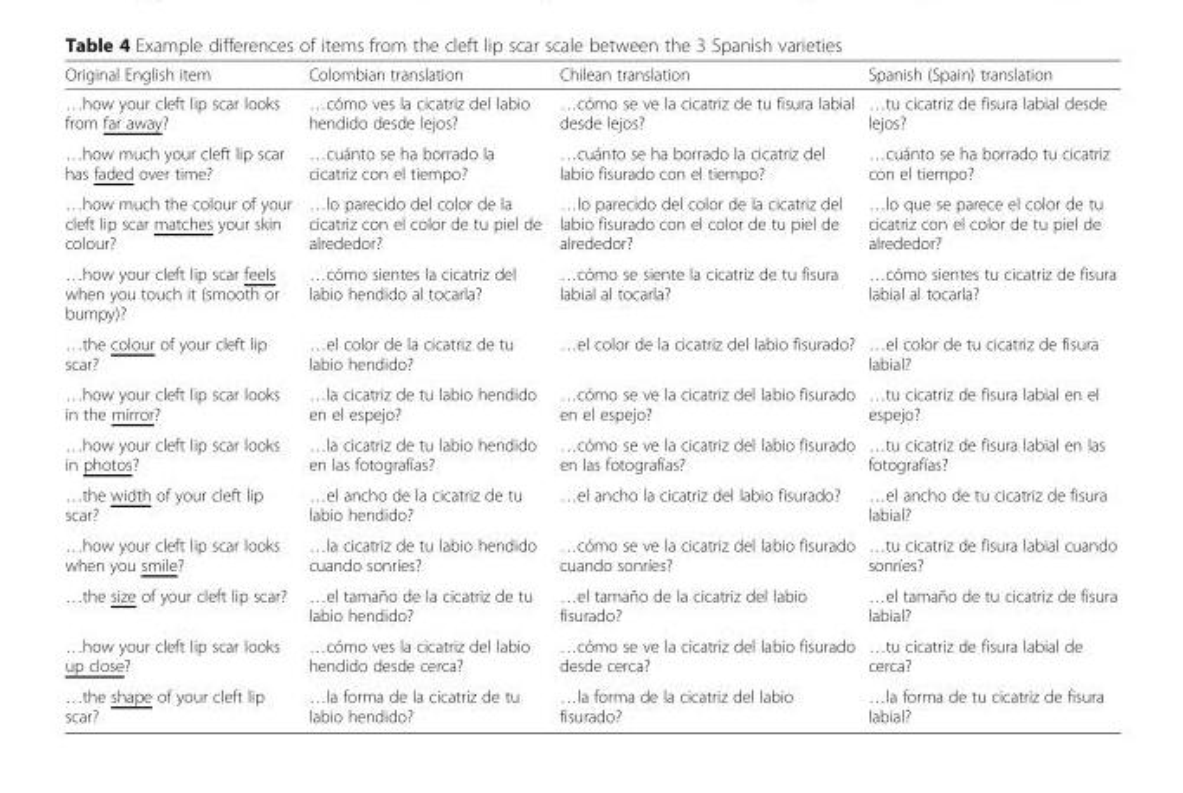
<table><thead><tr><td>Original English item</td><td>Colombian translation</td><td>Chilean translation</td><td>Spanish (Spain) translation</td></tr></thead><tbody><tr><td>…how your cleft lip scar looks from far away?</td><td>…cómo ves la cicatriz del labio hendido desde lejos?</td><td>…cómo se ve la cicatriz de tu fisura labial desde lejos?</td><td>…tu cicatriz de fisura labial desde lejos?</td></tr><tr><td>…how much your cleft lip scar has faded over time?</td><td>…cuánto se ha borrado la cicatriz con el tiempo?</td><td>…cuánto se ha borrado la cicatriz del labio fisurado con el tiempo?</td><td>…cuánto se ha borrado tu cicatriz con el tiempo?</td></tr><tr><td>…how much the colour of your cleft lip scar matches your skin colour?</td><td>…lo parecido del color de la cicatriz con el color de tu piel de alrededor?</td><td>…lo parecido del color de la cicatriz del labio fisurado con el color de tu piel de alrededor?</td><td>…lo que se parece el color de tu cicatriz con el color de tu piel de alrededor?</td></tr><tr><td>…how your cleft lip scar feels when you touch it (smooth or bumpy)?</td><td>…cómo sientes la cicatriz del labio hendido al tocarla?</td><td>…cómo se siente la cicatriz de tu fisura labial al tocarla?</td><td>…cómo sientes tu cicatriz de fisura labial al tocarla?</td></tr><tr><td>…the colour of your cleft lip scar?</td><td>…el color de la cicatriz de tu labio hendido?</td><td>…el color de la cicatriz del labio fisurado?</td><td>…el color de tu cicatriz de fisura labial?</td></tr><tr><td>…how your cleft lip scar looks in the mirror?</td><td>…la cicatriz de tu labio hendido en el espejo?</td><td>…cómo se ve la cicatriz del labio fisurado en el espejo?</td><td>…tu cicatriz de fisura labial en el espejo?</td></tr><tr><td>…how your cleft lip scar looks in photos?</td><td>…la cicatriz de tu labio hendido en las fotografías?</td><td>…cómo se ve la cicatriz del labio fisurado en las fotografías?</td><td>…tu cicatriz de fisura labial en las fotografías?</td></tr><tr><td>…the width of your cleft lip scar?</td><td>…el ancho de la cicatriz de tu labio hendido?</td><td>…el ancho la cicatriz del labio fisurado?</td><td>…el ancho de tu cicatriz de fisura labial?</td></tr><tr><td>…how your cleft lip scar looks when you smile?</td><td>…la cicatriz de tu labio hendido cuando sonríes?</td><td>…cómo se ve la cicatriz del labio fisurado cuando sonríes?</td><td>…tu cicatriz de fisura labial cuando sonríes?</td></tr><tr><td>…the size of your cleft lip scar?</td><td>…el tamaño de la cicatriz de tu labio hendido?</td><td>…el tamaño de la cicatriz del labio fisurado?</td><td>…el tamaño de tu cicatriz de fisura labial?</td></tr><tr><td>…how your cleft lip scar looks up close?</td><td>…cómo ves la cicatriz del labio hendido desde cerca?</td><td>…cómo se ve la cicatriz del labio fisurado desde cerca?</td><td>…tu cicatriz de fisura labial de cerca?</td></tr><tr><td>…the shape of your cleft lip scar?</td><td>…la forma de la cicatriz de tu labio hendido?</td><td>…la forma de la cicatriz del labio fisurado?</td><td>…la forma de tu cicatriz de fisura labial?</td></tr></tbody></table>